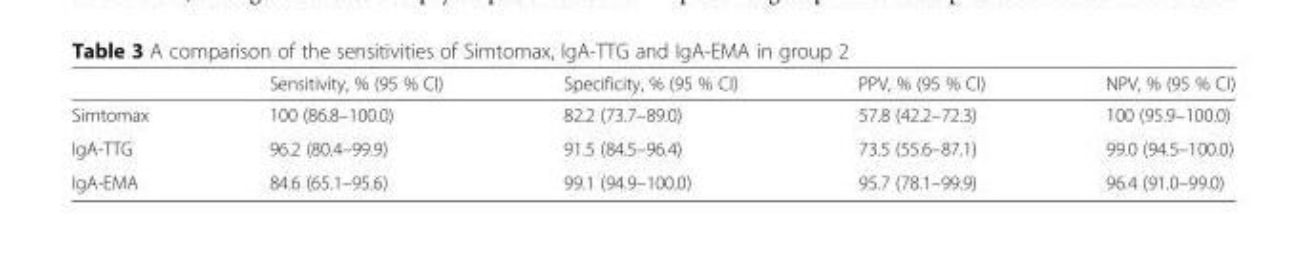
<table><thead><tr><td></td><td>Sensitivity, % (95 % CI)</td><td>Specificity, % (95 % CI)</td><td>PPV, % (95 % CI)</td><td>NPV, % (95 % CI)</td></tr></thead><tbody><tr><td>Simtomax</td><td>100 (86.8–100.0)</td><td>82.2 (73.7–89.0)</td><td>57.8 (42.2–72.3)</td><td>100 (95.9–100.0)</td></tr><tr><td>IgA-TTG</td><td>96.2 (80.4–99.9)</td><td>91.5 (84.5–96.4)</td><td>73.5 (55.6–87.1)</td><td>99.0 (94.5–100.0)</td></tr><tr><td>IgA-EMA</td><td>84.6 (65.1–95.6)</td><td>99.1 (94.9–100.0)</td><td>95.7 (78.1–99.9)</td><td>96.4 (91.0–99.0)</td></tr></tbody></table>